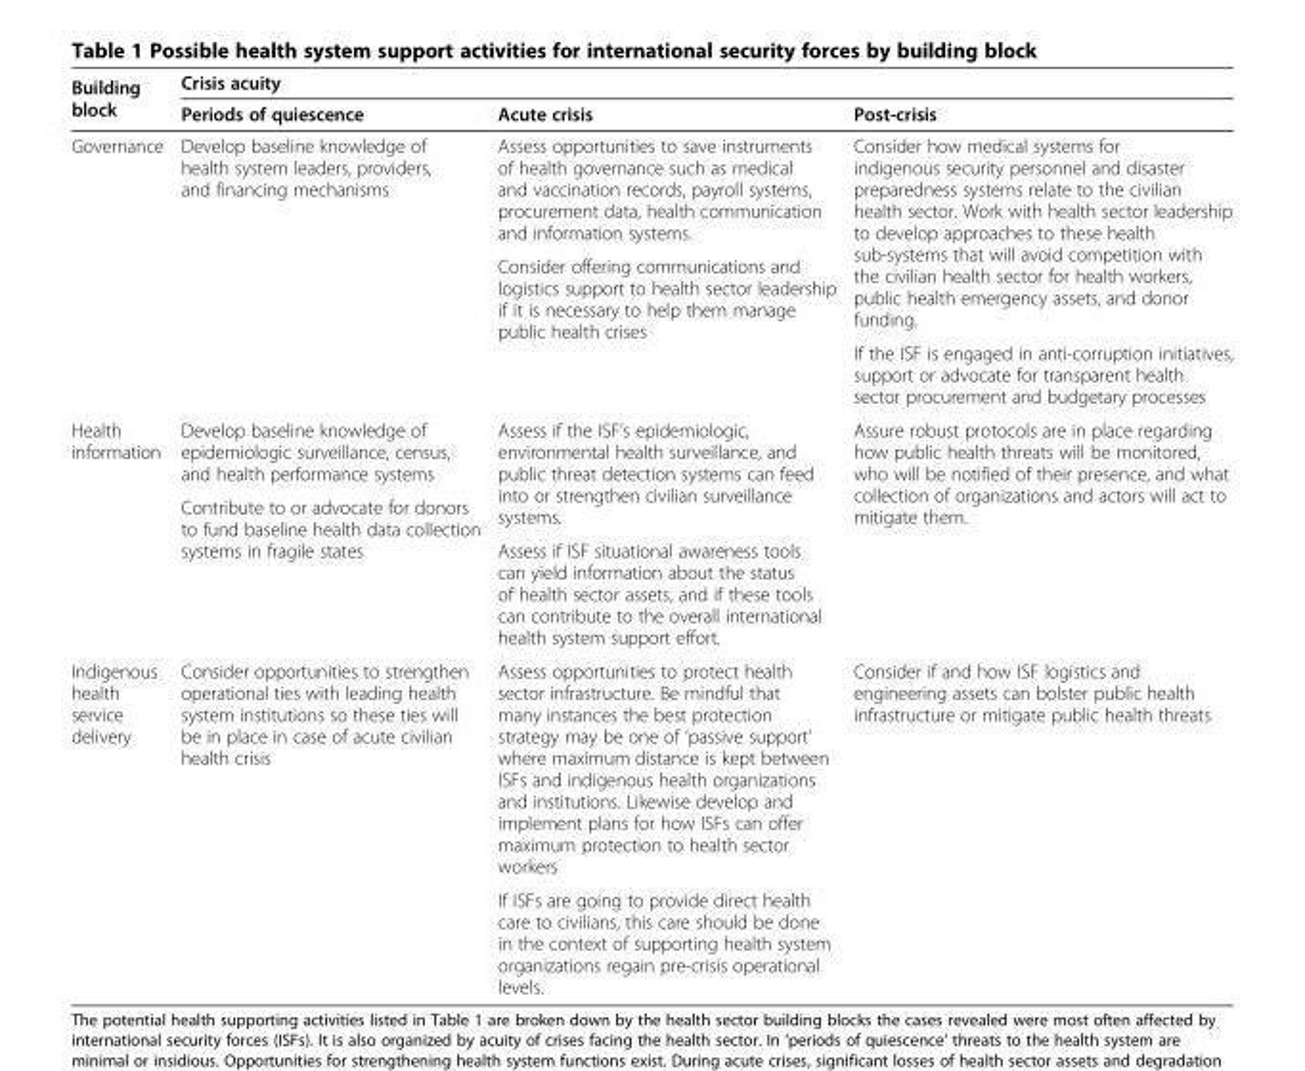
<table><thead><tr><td rowspan="2">Building block</td><td colspan="3">Crisis acuity</td></tr><tr><td>Periods of quiescence</td><td>Acute crisis</td><td>Post-crisis</td></tr></thead><tbody><tr><td rowspan="3">Governance</td><td rowspan="3">Develop baseline knowledge of health system leaders, providers, and financing mechanisms</td><td>Assess opportunities to save instruments of health governance such as medical and vaccination records, payroll systems, procurement data, health communication and information systems.</td><td rowspan="2">Consider how medical systems for indigenous security personnel and disaster preparedness systems relate to the civilian health sector. Work with health sector leadership to develop approaches to these health sub-systems that will avoid competition with the civilian health sector for health workers, public health emergency assets, and donor funding.</td></tr><tr><td rowspan="2">Consider offering communications and logistics support to health sector leadership if it is necessary to help them manage public health crises</td></tr><tr><td>If the ISF is engaged in anti-corruption initiatives, support or advocate for transparent health sector procurement and budgetary processes</td></tr><tr><td rowspan="3">Health information</td><td>Develop baseline knowledge of epidemiologic surveillance, census, and health performance systems</td><td rowspan="2">Assess if the ISF’s epidemiologic, environmental health surveillance, and public threat detection systems can feed into or strengthen civilian surveillance systems.</td><td rowspan="3">Assure robust protocols are in place regarding how public health threats will be monitored, who will be notified of their presence, and what collection of organizations and actors will act to mitigate them.</td></tr><tr><td rowspan="2">Contribute to or advocate for donors to fund baseline health data collection systems in fragile states</td></tr><tr><td>Assess if ISF situational awareness tools can yield information about the status of health sector assets, and if these tools can contribute to the overall international health system support effort.</td></tr><tr><td rowspan="2">Indigenous health service delivery</td><td rowspan="2">Consider opportunities to strengthen operational ties with leading health system institutions so these ties will be in place in case of acute civilian health crisis</td><td>Assess opportunities to protect health sector infrastructure. Be mindful that many instances the best protection strategy may be one of ‘passive support’ where maximum distance is kept between ISFs and indigenous health organizations and institutions. Likewise develop and implement plans for how ISFs can offer maximum protection to health sector workers</td><td rowspan="2">Consider if and how ISF logistics and engineering assets can bolster public health infrastructure or mitigate public health threats</td></tr><tr><td>If ISFs are going to provide direct health care to civilians, this care should be done in the context of supporting health system organizations regain pre-crisis operational levels.</td></tr></tbody></table>